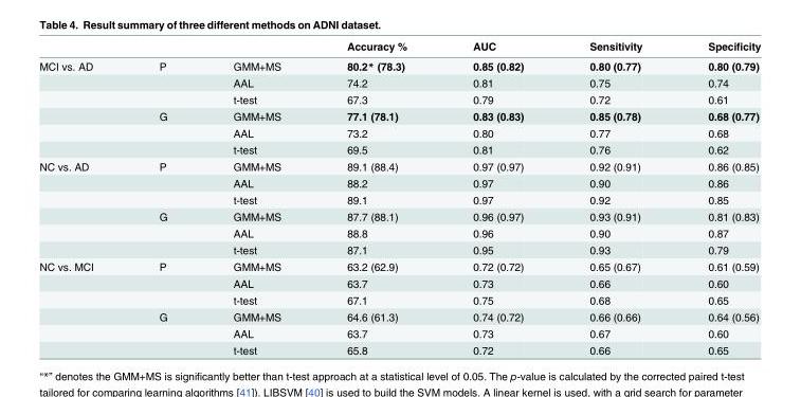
<table><thead><tr><td></td><td></td><td></td><td>Accuracy %</td><td>AUC</td><td>Sensitivity</td><td>Specificity</td></tr></thead><tbody><tr><td rowspan="6">MCI vs. AD</td><td>P</td><td>GMM+MS</td><td>80.2* (78.3)</td><td>0.85 (0.82)</td><td>0.80 (0.77)</td><td>0.80 (0.79)</td></tr><tr><td></td><td>AAL</td><td>74.2</td><td>0.81</td><td>0.75</td><td>0.74</td></tr><tr><td></td><td>t-test</td><td>67.3</td><td>0.79</td><td>0.72</td><td>0.61</td></tr><tr><td>G</td><td>GMM+MS</td><td>77.1 (78.1)</td><td>0.83 (0.83)</td><td>0.85 (0.78)</td><td>0.68 (0.77)</td></tr><tr><td></td><td>AAL</td><td>73.2</td><td>0.80</td><td>0.77</td><td>0.68</td></tr><tr><td></td><td>t-test</td><td>69.5</td><td>0.81</td><td>0.76</td><td>0.62</td></tr><tr><td rowspan="6">NC vs. AD</td><td>P</td><td>GMM+MS</td><td>89.1 (88.4)</td><td>0.97 (0.97)</td><td>0.92 (0.91)</td><td>0.86 (0.85)</td></tr><tr><td></td><td>AAL</td><td>88.2</td><td>0.97</td><td>0.90</td><td>0.86</td></tr><tr><td></td><td>t-test</td><td>89.1</td><td>0.97</td><td>0.92</td><td>0.85</td></tr><tr><td>G</td><td>GMM+MS</td><td>87.7 (88.1)</td><td>0.96 (0.97)</td><td>0.93 (0.91)</td><td>0.81 (0.83)</td></tr><tr><td></td><td>AAL</td><td>88.8</td><td>0.96</td><td>0.90</td><td>0.87</td></tr><tr><td></td><td>t-test</td><td>87.1</td><td>0.95</td><td>0.93</td><td>0.79</td></tr><tr><td rowspan="6">NC vs. MCI</td><td>P</td><td>GMM+MS</td><td>63.2 (62.9)</td><td>0.72 (0.72)</td><td>0.65 (0.67)</td><td>0.61 (0.59)</td></tr><tr><td></td><td>AAL</td><td>63.7</td><td>0.73</td><td>0.66</td><td>0.60</td></tr><tr><td></td><td>t-test</td><td>67.1</td><td>0.75</td><td>0.68</td><td>0.65</td></tr><tr><td>G</td><td>GMM+MS</td><td>64.6 (61.3)</td><td>0.74 (0.72)</td><td>0.66 (0.66)</td><td>0.64 (0.56)</td></tr><tr><td></td><td>AAL</td><td>63.7</td><td>0.73</td><td>0.67</td><td>0.60</td></tr><tr><td></td><td>t-test</td><td>65.8</td><td>0.72</td><td>0.66</td><td>0.65</td></tr></tbody></table>